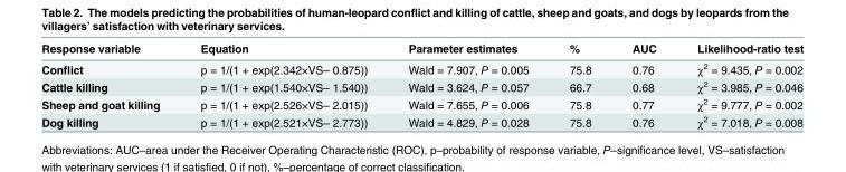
<table><thead><tr><td>Response variable</td><td>Equation</td><td>Parameter estimates</td><td>%</td><td>AUC</td><td>Likelihood-ratio test</td></tr></thead><tbody><tr><td>Conflict</td><td>p = 1/(1 + exp(2.342×VS– 0.875))</td><td>Wald = 7.907, P = 0.005</td><td>75.8</td><td>0.76</td><td>χ<sup>2</sup> = 9.435, P = 0.002</td></tr><tr><td>Cattle killing</td><td>p = 1/(1 + exp(1.540×VS– 1.540))</td><td>Wald = 3.624, P = 0.057</td><td>66.7</td><td>0.68</td><td>χ<sup>2</sup> = 3.985, P = 0.046</td></tr><tr><td>Sheep and goat killing</td><td>p = 1/(1 + exp(2.526×VS– 2.015))</td><td>Wald = 7.655, P = 0.006</td><td>75.8</td><td>0.77</td><td>χ<sup>2</sup> = 9.777, P = 0.002</td></tr><tr><td>Dog killing</td><td>p = 1/(1 + exp(2.521×VS– 2.773))</td><td>Wald = 4.829, P = 0.028</td><td>75.8</td><td>0.76</td><td>χ<sup>2</sup> = 7.018, P = 0.008</td></tr></tbody></table>